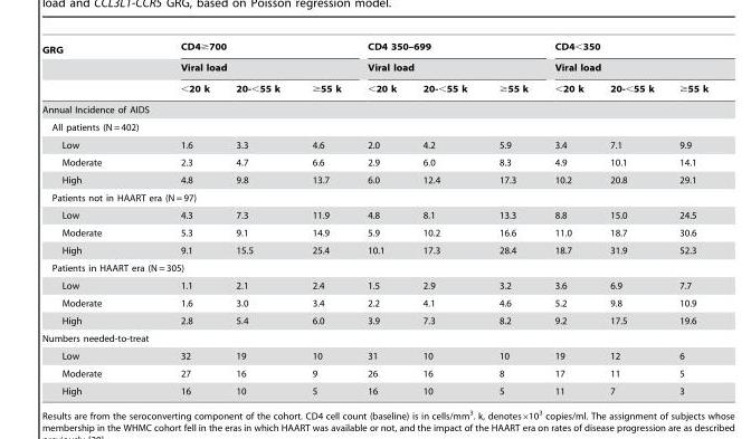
<table><thead><tr><td rowspan="3">GRG</td><td rowspan="2" colspan="3">CD4≥700 Viral load</td><td rowspan="2" colspan="3">CD4 350–699 Viral load</td><td rowspan="2" colspan="3">CD4&lt;350 Viral load</td></tr><tr></tr><tr><td>&lt;20 k</td><td>20-&lt;55 k</td><td>≥55 k</td><td>&lt;20 k</td><td>20-&lt;55 k</td><td>≥55 k</td><td>&lt;20 k</td><td>20-&lt;55 k</td><td>≥55 k</td></tr></thead><tbody><tr><td colspan="10">Annual Incidence of AIDS</td></tr><tr><td colspan="10">All patients (N = 402)</td></tr><tr><td>Low</td><td>1.6</td><td>3.3</td><td>4.6</td><td>2.0</td><td>4.2</td><td>5.9</td><td>3.4</td><td>7.1</td><td>9.9</td></tr><tr><td>Moderate</td><td>2.3</td><td>4.7</td><td>6.6</td><td>2.9</td><td>6.0</td><td>8.3</td><td>4.9</td><td>10.1</td><td>14.1</td></tr><tr><td>High</td><td>4.8</td><td>9.8</td><td>13.7</td><td>6.0</td><td>12.4</td><td>17.3</td><td>10.2</td><td>20.8</td><td>29.1</td></tr><tr><td colspan="10">Patients not in HAART era (N = 97)</td></tr><tr><td>Low</td><td>4.3</td><td>7.3</td><td>11.9</td><td>4.8</td><td>8.1</td><td>13.3</td><td>8.8</td><td>15.0</td><td>24.5</td></tr><tr><td>Moderate</td><td>5.3</td><td>9.1</td><td>14.9</td><td>5.9</td><td>10.2</td><td>16.6</td><td>11.0</td><td>18.7</td><td>30.6</td></tr><tr><td>High</td><td>9.1</td><td>15.5</td><td>25.4</td><td>10.1</td><td>17.3</td><td>28.4</td><td>18.7</td><td>31.9</td><td>52.3</td></tr><tr><td colspan="10">Patients in HAART era (N = 305)</td></tr><tr><td>Low</td><td>1.1</td><td>2.1</td><td>2.4</td><td>1.5</td><td>2.9</td><td>3.2</td><td>3.6</td><td>6.9</td><td>7.7</td></tr><tr><td>Moderate</td><td>1.6</td><td>3.0</td><td>3.4</td><td>2.2</td><td>4.1</td><td>4.6</td><td>5.2</td><td>9.8</td><td>10.9</td></tr><tr><td>High</td><td>2.8</td><td>5.4</td><td>6.0</td><td>3.9</td><td>7.3</td><td>8.2</td><td>9.2</td><td>17.5</td><td>19.6</td></tr><tr><td colspan="10">Numbers needed-to-treat</td></tr><tr><td>Low</td><td>32</td><td>19</td><td>10</td><td>31</td><td>10</td><td>10</td><td>19</td><td>12</td><td>6</td></tr><tr><td>Moderate</td><td>27</td><td>16</td><td>9</td><td>26</td><td>16</td><td>8</td><td>17</td><td>11</td><td>5</td></tr><tr><td>High</td><td>16</td><td>10</td><td>5</td><td>16</td><td>10</td><td>5</td><td>11</td><td>7</td><td>3</td></tr></tbody></table>